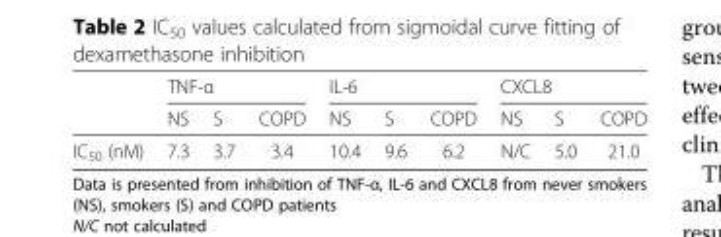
<table><thead><tr><td rowspan="2"></td><td colspan="3">TNF-α</td><td colspan="3">IL-6</td><td colspan="3">CXCL8</td></tr><tr><td>NS</td><td>S</td><td>COPD</td><td>NS</td><td>S</td><td>COPD</td><td>NS</td><td>S</td><td>COPD</td></tr></thead><tbody><tr><td>IC<sub>50</sub> (nM)</td><td>7.3</td><td>3.7</td><td>3.4</td><td>10.4</td><td>9.6</td><td>6.2</td><td>N/C</td><td>5.0</td><td>21.0</td></tr></tbody></table>